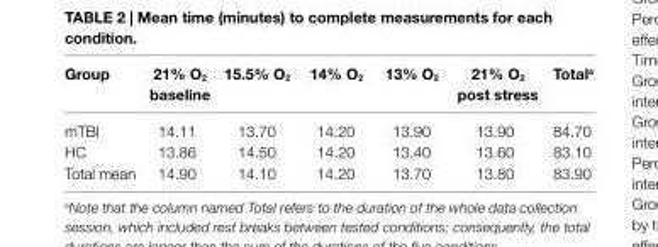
<table><thead><tr><td>group</td><td>21% O<sub>2</sub> baseline</td><td>15.5% O<sub>2</sub></td><td>14% O<sub>2</sub></td><td>13% O<sub>2</sub></td><td>21% O<sub>2</sub> post stress</td><td>Total<sup>a</sup></td></tr></thead><tbody><tr><td>mTBI</td><td>14.11</td><td>13.70</td><td>14.20</td><td>13.90</td><td>13.90</td><td>84.70</td></tr><tr><td>HC</td><td>13.86</td><td>14.50</td><td>14.20</td><td>13.40</td><td>13.60</td><td>83.10</td></tr><tr><td>Total mean</td><td>14.90</td><td>14.10</td><td>14.20</td><td>13.70</td><td>13.80</td><td>83.90</td></tr></tbody></table>